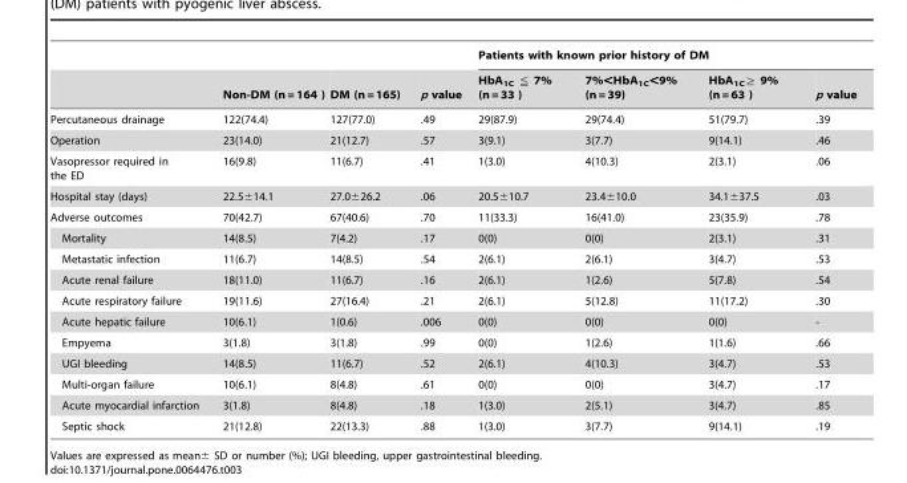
<table><thead><tr><td rowspan="2"></td><td rowspan="2">Non-DM (n = 164 )</td><td rowspan="2">DM (n = 165)</td><td rowspan="2">p value</td><td colspan="4">Patients with known prior history of DM</td></tr><tr><td>HbA<sub>1C</sub> ≦ 7% (n = 33 )</td><td>7%&lt;HbA<sub>1C</sub>&lt;9% (n = 39)</td><td>HbA<sub>1C</sub>≧ 9% (n = 63 )</td><td>p value</td></tr></thead><tbody><tr><td>Percutaneous drainage</td><td>122(74.4)</td><td>127(77.0)</td><td>.49</td><td>29(87.9)</td><td>29(74.4)</td><td>51(79.7)</td><td>.39</td></tr><tr><td>Operation</td><td>23(14.0)</td><td>21(12.7)</td><td>.57</td><td>3(9.1)</td><td>3(7.7)</td><td>9(14.1)</td><td>.46</td></tr><tr><td>Vasopressor required in the ED</td><td>16(9.8)</td><td>11(6.7)</td><td>.41</td><td>1(3.0)</td><td>4(10.3)</td><td>2(3.1)</td><td>.06</td></tr><tr><td>Hospital stay (days)</td><td>22.5±14.1</td><td>27.0±26.2</td><td>.06</td><td>20.5±10.7</td><td>23.4±10.0</td><td>34.1±37.5</td><td>.03</td></tr><tr><td>Adverse outcomes</td><td>70(42.7)</td><td>67(40.6)</td><td>.70</td><td>11(33.3)</td><td>16(41.0)</td><td>23(35.9)</td><td>.78</td></tr><tr><td>Mortality</td><td>14(8.5)</td><td>7(4.2)</td><td>.17</td><td>0(0)</td><td>0(0)</td><td>2(3.1)</td><td>.31</td></tr><tr><td>Metastatic infection</td><td>11(6.7)</td><td>14(8.5)</td><td>.54</td><td>2(6.1)</td><td>2(6.1)</td><td>3(4.7)</td><td>.53</td></tr><tr><td>Acute renal failure</td><td>18(11.0)</td><td>11(6.7)</td><td>.16</td><td>2(6.1)</td><td>1(2.6)</td><td>5(7.8)</td><td>.54</td></tr><tr><td>Acute respiratory failure</td><td>19(11.6)</td><td>27(16.4)</td><td>.21</td><td>2(6.1)</td><td>5(12.8)</td><td>11(17.2)</td><td>.30</td></tr><tr><td>Acute hepatic failure</td><td>10(6.1)</td><td>1(0.6)</td><td>.006</td><td>0(0)</td><td>0(0)</td><td>0(0)</td><td>-</td></tr><tr><td>Empyema</td><td>3(1.8)</td><td>3(1.8)</td><td>.99</td><td>0(0)</td><td>1(2.6)</td><td>1(1.6)</td><td>.66</td></tr><tr><td>UGI bleeding</td><td>14(8.5)</td><td>11(6.7)</td><td>.52</td><td>2(6.1)</td><td>4(10.3)</td><td>3(4.7)</td><td>.53</td></tr><tr><td>Multi-organ failure</td><td>10(6.1)</td><td>8(4.8)</td><td>.61</td><td>0(0)</td><td>0(0)</td><td>3(4.7)</td><td>.17</td></tr><tr><td>Acute myocardial infarction</td><td>3(1.8)</td><td>8(4.8)</td><td>.18</td><td>1(3.0)</td><td>2(5.1)</td><td>3(4.7)</td><td>.85</td></tr><tr><td>Septic shock</td><td>21(12.8)</td><td>22(13.3)</td><td>.88</td><td>1(3.0)</td><td>3(7.7)</td><td>9(14.1)</td><td>.19</td></tr></tbody></table>